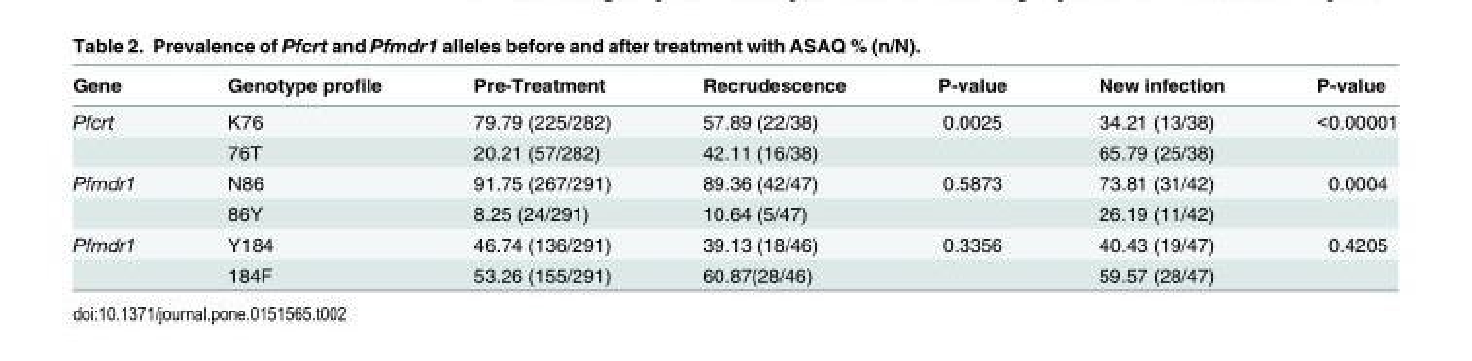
<table><thead><tr><td>Gene</td><td>Genotype profile</td><td>Pre-Treatment</td><td>Recrudescence</td><td>P-value</td><td>New infection</td><td>P-value</td></tr></thead><tbody><tr><td rowspan="2">Pfcrt</td><td>K76</td><td>79.79 (225/282)</td><td>57.89 (22/38)</td><td>0.0025</td><td>34.21 (13/38)</td><td>&lt;0.00001</td></tr><tr><td>76T</td><td>20.21 (57/282)</td><td>42.11 (16/38)</td><td></td><td>65.79 (25/38)</td><td></td></tr><tr><td rowspan="2">Pfmdr1</td><td>N86</td><td>91.75 (267/291)</td><td>89.36 (42/47)</td><td>0.5873</td><td>73.81 (31/42)</td><td>0.0004</td></tr><tr><td>86Y</td><td>8.25 (24/291)</td><td>10.64 (5/47)</td><td></td><td>26.19 (11/42)</td><td></td></tr><tr><td rowspan="2">Pfmdr1</td><td>Y184</td><td>46.74 (136/291)</td><td>39.13 (18/46)</td><td>0.3356</td><td>40.43 (19/47)</td><td>0.4205</td></tr><tr><td>184F</td><td>53.26 (155/291)</td><td>60.87(28/46)</td><td></td><td>59.57 (28/47)</td><td></td></tr></tbody></table>